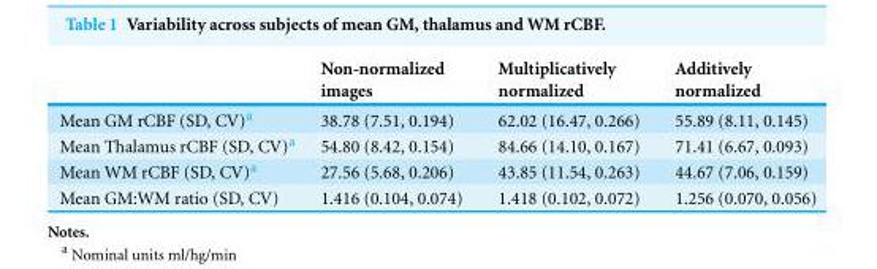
<table><thead><tr><td></td><td>Non-normalized images</td><td>Multiplicatively normalized</td><td>Additively normalized</td></tr></thead><tbody><tr><td>Mean GM rCBF (SD, CV)<sup>a</sup></td><td>38.78 (7.51, 0.194)</td><td>62.02 (16.47, 0.266)</td><td>55.89 (8.11, 0.145)</td></tr><tr><td>Mean Thalamus rCBF (SD, CV)<sup>a</sup></td><td>54.80 (8.42, 0.154)</td><td>84.66 (14.10, 0.167)</td><td>71.41 (6.67, 0.093)</td></tr><tr><td>Mean WM rCBF (SD, CV)<sup>a</sup></td><td>27.56 (5.68, 0.206)</td><td>43.85 (11.54, 0.263)</td><td>44.67 (7.06, 0.159)</td></tr><tr><td>Mean GM:WM ratio (SD, CV)</td><td>1.416 (0.104, 0.074)</td><td>1.418 (0.102, 0.072)</td><td>1.256 (0.070, 0.056)</td></tr></tbody></table>